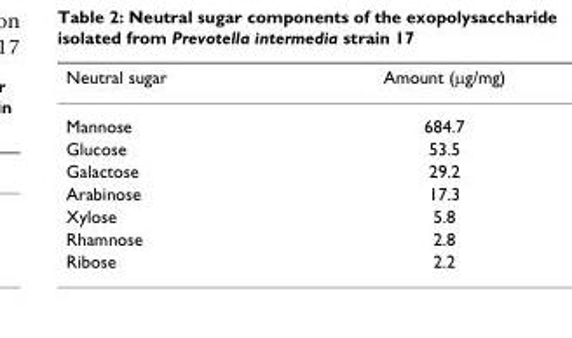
<table><thead><tr><td>Neutral sugar</td><td>Amount (μg/mg)</td></tr></thead><tbody><tr><td>Mannose</td><td>684.7</td></tr><tr><td>Glucose</td><td>53.5</td></tr><tr><td>Galactose</td><td>29.2</td></tr><tr><td>Arabinose</td><td>17.3</td></tr><tr><td>Xylose</td><td>5.8</td></tr><tr><td>Rhamnose</td><td>2.8</td></tr><tr><td>Ribose</td><td>2.2</td></tr></tbody></table>